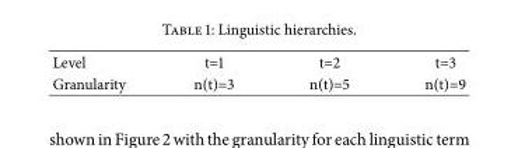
<table><tbody><tr><td>Level</td><td>t=1</td><td>t=2</td><td>t=3</td></tr><tr><td>Granularity</td><td>n(t)=3</td><td>n(t)=5</td><td>n(t)=9</td></tr></tbody></table>